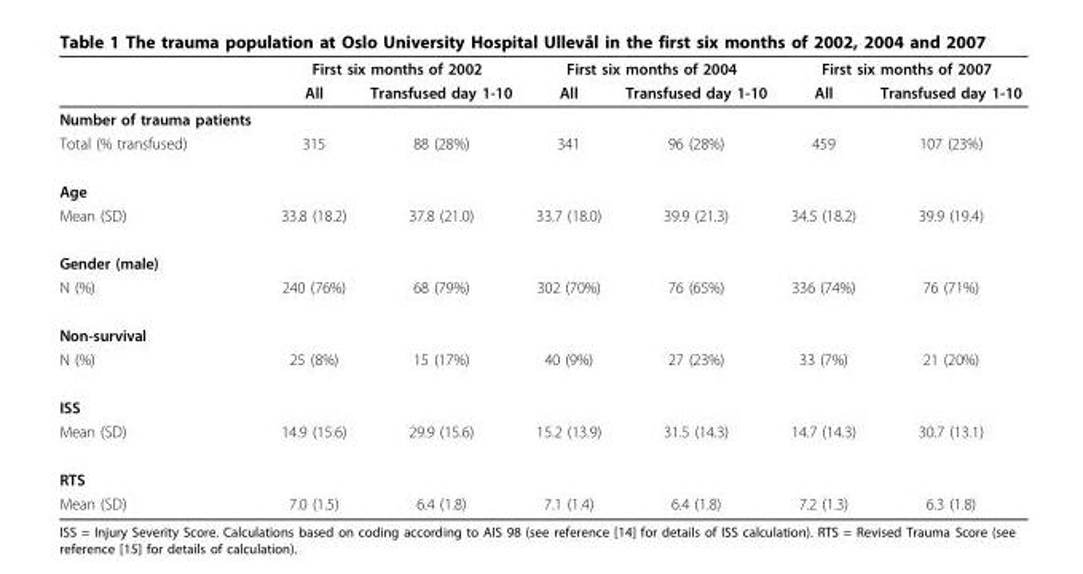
<table><thead><tr><td rowspan="2"></td><td colspan="2">First six months of 2002</td><td colspan="2">First six months of 2004</td><td colspan="2">First six months of 2007</td></tr><tr><td>All</td><td>Transfused day 1-10</td><td>All</td><td>Transfused day 1-10</td><td>All</td><td>Transfused day 1-10</td></tr></thead><tbody><tr><td colspan="7">Number of trauma patients</td></tr><tr><td>Total (% transfused)</td><td>315</td><td>88 (28%)</td><td>341</td><td>96 (28%)</td><td>459</td><td>107 (23%)</td></tr><tr><td colspan="7">Age</td></tr><tr><td>Mean (SD)</td><td>33.8 (18.2)</td><td>37.8 (21.0)</td><td>33.7 (18.0)</td><td>39.9 (21.3)</td><td>34.5 (18.2)</td><td>39.9 (19.4)</td></tr><tr><td colspan="7">Gender (male)</td></tr><tr><td>N (%)</td><td>240 (76%)</td><td>68 (79%)</td><td>302 (70%)</td><td>76 (65%)</td><td>336 (74%)</td><td>76 (71%)</td></tr><tr><td colspan="7">Non-survival</td></tr><tr><td>N (%)</td><td>25 (8%)</td><td>15 (17%)</td><td>40 (9%)</td><td>27 (23%)</td><td>33 (7%)</td><td>21 (20%)</td></tr><tr><td colspan="7">ISS</td></tr><tr><td>Mean (SD)</td><td>14.9 (15.6)</td><td>29.9 (15.6)</td><td>15.2 (13.9)</td><td>31.5 (14.3)</td><td>14.7 (14.3)</td><td>30.7 (13.1)</td></tr><tr><td colspan="7">RTS</td></tr><tr><td>Mean (SD)</td><td>7.0 (1.5)</td><td>6.4 (1.8)</td><td>7.1 (1.4)</td><td>6.4 (1.8)</td><td>7.2 (1.3)</td><td>6.3 (1.8)</td></tr></tbody></table>